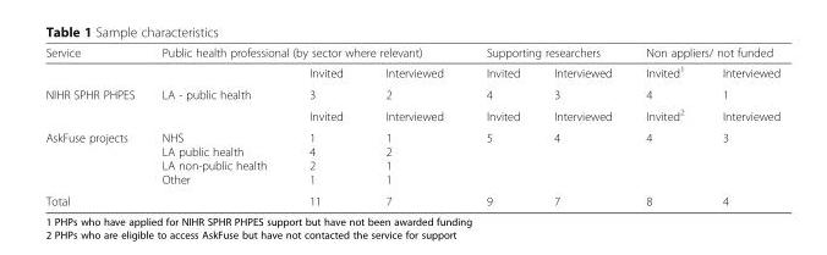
<table><thead><tr><td rowspan="2">Service</td><td colspan="3">Public health professional (by sector where relevant)</td><td colspan="2">Supporting researchers</td><td colspan="2">Non appliers/ not funded</td></tr><tr><td></td><td>Invited</td><td>Interviewed</td><td>Invited</td><td>Interviewed</td><td>Invited<sup>1</sup></td><td>Interviewed</td></tr></thead><tbody><tr><td rowspan="2">NIHR SPHR PHPES</td><td>LA - public health</td><td>3</td><td>2</td><td>4</td><td>3</td><td>4</td><td>1</td></tr><tr><td></td><td>Invited</td><td>Interviewed</td><td>Invited</td><td>Interviewed</td><td>Invited<sup>2</sup></td><td>Interviewed</td></tr><tr><td>AskFuse projects</td><td>NHS LA public health LA non-public health Other</td><td>1 4 2 1</td><td>1 2 1 1</td><td>5</td><td>4</td><td>4</td><td>3</td></tr><tr><td>Total</td><td></td><td>11</td><td>7</td><td>9</td><td>7</td><td>8</td><td>4</td></tr></tbody></table>